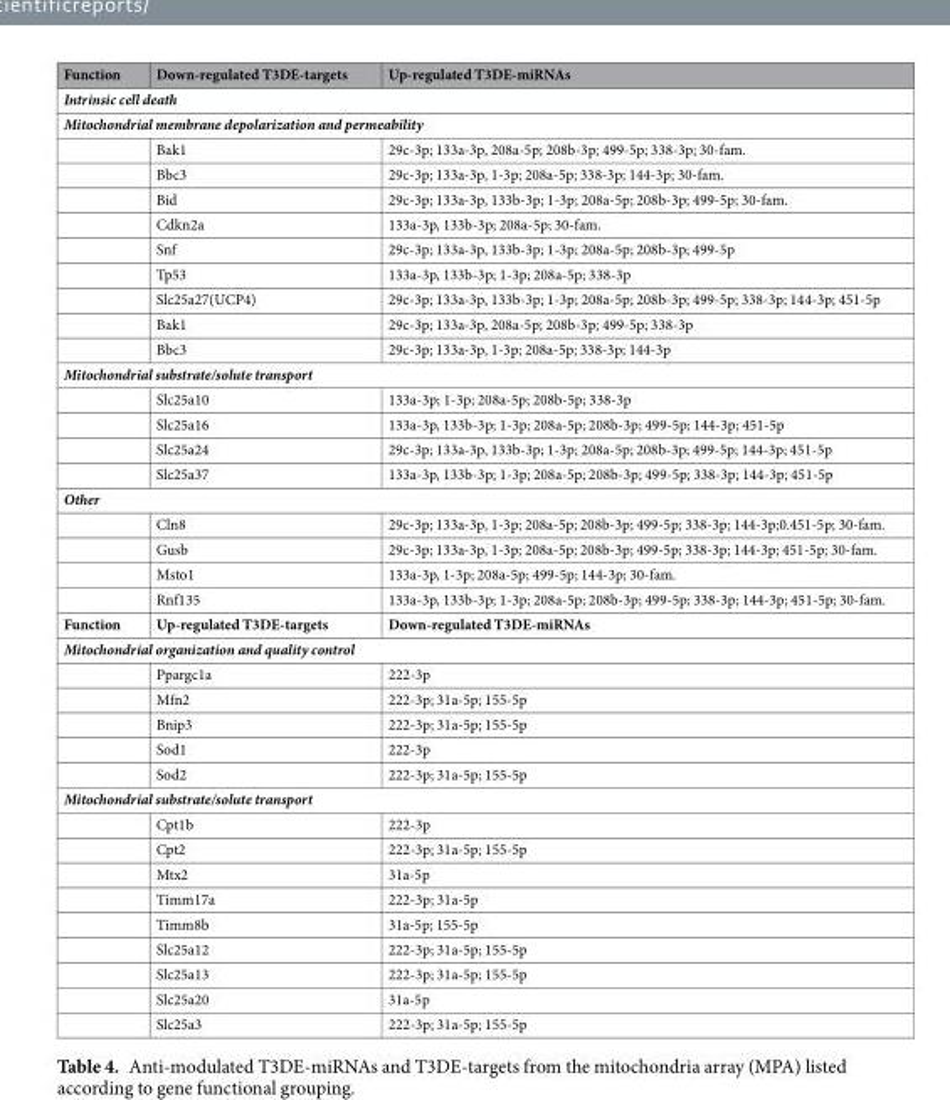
<table><thead><tr><td>Function</td><td>Down-regulated T3DE-targets</td><td>Up-regulated T3DE-miRNAs</td></tr></thead><tbody><tr><td colspan="3">Intrinsic cell death</td></tr><tr><td colspan="3">Mitochondrial membrane depolarization and permeability</td></tr><tr><td></td><td>Bak1</td><td>29c-3p; 133a-3p, 208a-5p; 208b-3p; 499-5p; 338-3p; 30-fam.</td></tr><tr><td></td><td>Bbc3</td><td>29c-3p; 133a-3p, 1-3p; 208a-5p; 338-3p; 144-3p; 30-fam.</td></tr><tr><td></td><td>Bid</td><td>29c-3p; 133a-3p, 133b-3p; 1-3p; 208a-5p; 208b-3p; 499-5p; 30-fam.</td></tr><tr><td></td><td>Cdkn2a</td><td>133a-3p, 133b-3p; 208a-5p; 30-fam.</td></tr><tr><td></td><td>Snf</td><td>29c-3p; 133a-3p, 133b-3p; 1-3p; 208a-5p; 208b-3p; 499-5p</td></tr><tr><td></td><td>Tp53</td><td>133a-3p, 133b-3p; 1-3p; 208a-5p; 338-3p</td></tr><tr><td></td><td>Slc25a27(UCP4)</td><td>29c-3p; 133a-3p, 133b-3p; 1-3p; 208a-5p; 208b-3p; 499-5p; 338-3p; 144-3p; 451-5p</td></tr><tr><td></td><td>Bak1</td><td>29c-3p; 133a-3p, 208a-5p; 208b-3p; 499-5p; 338-3p</td></tr><tr><td></td><td>Bbc3</td><td>29c-3p; 133a-3p, 1-3p; 208a-5p; 338-3p; 144-3p</td></tr><tr><td colspan="3">Mitochondrial substrate/solute transport</td></tr><tr><td></td><td>Slc25a10</td><td>133a-3p; 1-3p; 208a-5p; 208b-5p; 338-3p</td></tr><tr><td></td><td>Slc25a16</td><td>133a-3p, 133b-3p; 1-3p; 208a-5p; 208b-3p; 499-5p; 144-3p; 451-5p</td></tr><tr><td></td><td>Slc25a24</td><td>29c-3p; 133a-3p, 133b-3p; 1-3p; 208a-5p; 208b-3p; 499-5p; 144-3p; 451-5p</td></tr><tr><td></td><td>Slc25a37</td><td>133a-3p, 133b-3p; 1-3p; 208a-5p; 208b-3p; 499-5p; 338-3p; 144-3p; 451-5p</td></tr><tr><td colspan="3">Other</td></tr><tr><td></td><td>Cln8</td><td>29c-3p; 133a-3p, 1-3p; 208a-5p; 208b-3p; 499-5p; 338-3p; 144-3p;0.451-5p; 30-fam.</td></tr><tr><td></td><td>Gusb</td><td>29c-3p; 133a-3p, 1-3p; 208a-5p; 208b-3p; 499-5p; 338-3p; 144-3p; 451-5p; 30-fam.</td></tr><tr><td></td><td>Msto1</td><td>133a-3p, 1-3p; 208a-5p; 499-5p; 144-3p; 30-fam.</td></tr><tr><td></td><td>Rnf135</td><td>133a-3p, 133b-3p; 1-3p; 208a-5p; 208b-3p; 499-5p; 338-3p; 144-3p; 451-5p; 30-fam.</td></tr><tr><td>Function</td><td>Up-regulated T3DE-targets</td><td>Down-regulated T3DE-miRNAs</td></tr><tr><td colspan="3">Mitochondrial organization and quality control</td></tr><tr><td></td><td>Ppargc1a</td><td>222-3p</td></tr><tr><td></td><td>Mfn2</td><td>222-3p; 31a-5p; 155-5p</td></tr><tr><td></td><td>Bnip3</td><td>222-3p; 31a-5p; 155-5p</td></tr><tr><td></td><td>Sod1</td><td>222-3p</td></tr><tr><td></td><td>Sod2</td><td>222-3p; 31a-5p; 155-5p</td></tr><tr><td colspan="3">Mitochondrial substrate/solute transport</td></tr><tr><td></td><td>Cpt1b</td><td>222-3p</td></tr><tr><td></td><td>Cpt2</td><td>222-3p; 31a-5p; 155-5p</td></tr><tr><td></td><td>Mtx2</td><td>31a-5p</td></tr><tr><td></td><td>Timm17a</td><td>222-3p; 31a-5p</td></tr><tr><td></td><td>Timm8b</td><td>31a-5p; 155-5p</td></tr><tr><td></td><td>Slc25a12</td><td>222-3p; 31a-5p; 155-5p</td></tr><tr><td></td><td>Slc25a13</td><td>222-3p; 31a-5p; 155-5p</td></tr><tr><td></td><td>Slc25a20</td><td>31a-5p</td></tr><tr><td></td><td>Slc25a3</td><td>222-3p; 31a-5p; 155-5p</td></tr></tbody></table>